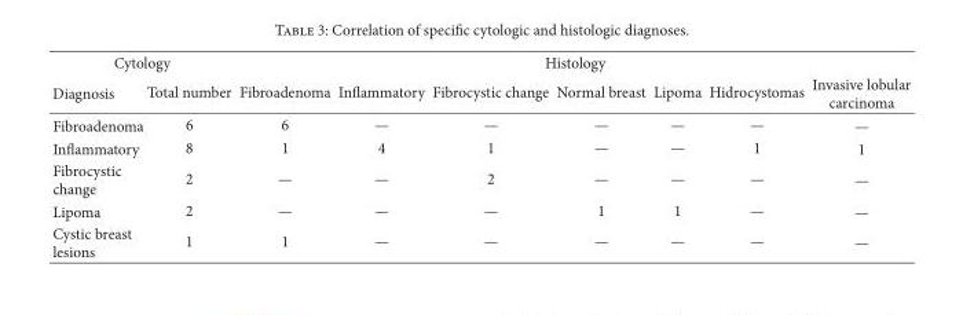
<table><thead><tr><td colspan="2">Cytology</td><td colspan="7">Histology</td></tr><tr><td>Diagnosis</td><td>Total number</td><td>Fibroadenoma</td><td>Inflammatory</td><td>Fibrocystic change</td><td>Normal breast</td><td>Lipoma</td><td>Hidrocystomas</td><td>Invasive lobular carcinoma</td></tr></thead><tbody><tr><td>Fibroadenoma</td><td>6</td><td>6</td><td>—</td><td>—</td><td>—</td><td>—</td><td>—</td><td>—</td></tr><tr><td>Inflammatory</td><td>8</td><td>1</td><td>4</td><td>1</td><td>—</td><td>—</td><td>1</td><td>1</td></tr><tr><td>Fibrocystic change</td><td>2</td><td>—</td><td>—</td><td>2</td><td>—</td><td>—</td><td>—</td><td>—</td></tr><tr><td>Lipoma</td><td>2</td><td>—</td><td>—</td><td>—</td><td>1</td><td>1</td><td>—</td><td>—</td></tr><tr><td>Cystic breast lesions</td><td>1</td><td>1</td><td>—</td><td>—</td><td>—</td><td>—</td><td>—</td><td>—</td></tr></tbody></table>